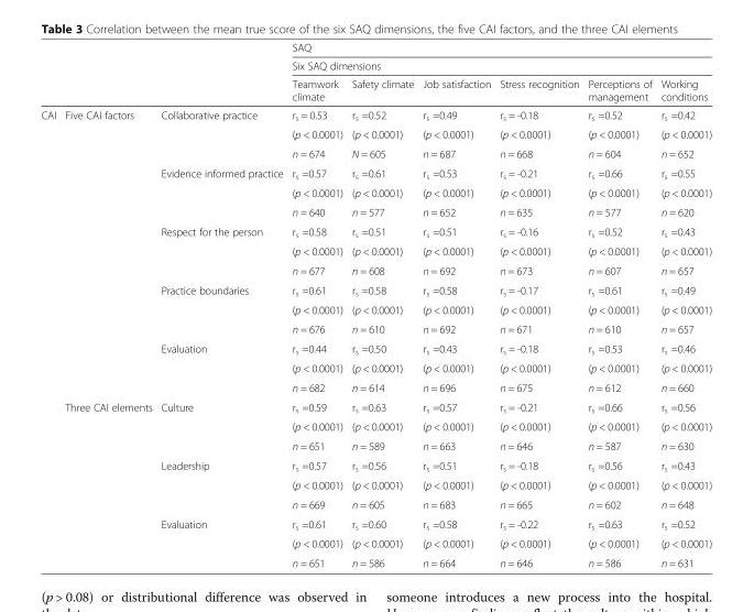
<table><thead><tr><td rowspan="3"></td><td rowspan="3"></td><td rowspan="3"></td><td rowspan="2" colspan="6">SAQ Six SAQ dimensions</td></tr><tr></tr><tr><td>Teamwork climate</td><td>Safety climate</td><td>Job satisfaction</td><td>Stress recognition</td><td>Perceptions of management</td><td>Working conditions</td></tr></thead><tbody><tr><td rowspan="24">CAI</td><td rowspan="15">Five CAI factors</td><td rowspan="3">Collaborative practice</td><td>r<sub>s</sub> = 0.53</td><td>r<sub>s</sub> =0.52</td><td>r<sub>s</sub> =0.49</td><td>r<sub>s</sub> = -0.18</td><td>r<sub>s</sub> =0.52</td><td>r<sub>s</sub> =0.42</td></tr><tr><td>(p &lt; 0.0001)</td><td>(p &lt; 0.0001)</td><td>(p &lt; 0.0001)</td><td>(p &lt; 0.0001)</td><td>(p &lt; 0.0001)</td><td>(p &lt; 0.0001)</td></tr><tr><td>n = 674</td><td>N = 605</td><td>n = 687</td><td>n = 668</td><td>n = 604</td><td>n = 652</td></tr><tr><td rowspan="3">Evidence informed practice</td><td>r<sub>s</sub> =0.57</td><td>r<sub>s</sub> =0.61</td><td>r<sub>s</sub> =0.53</td><td>r<sub>s</sub> = -0.21</td><td>r<sub>s</sub> =0.66</td><td>r<sub>s</sub> =0.55</td></tr><tr><td>(p &lt; 0.0001)</td><td>(p &lt; 0.0001)</td><td>(p &lt; 0.0001)</td><td>(p &lt; 0.0001)</td><td>(p &lt; 0.0001)</td><td>(p &lt; 0.0001)</td></tr><tr><td>n = 640</td><td>n = 577</td><td>n = 652</td><td>n = 635</td><td>n = 577</td><td>n = 620</td></tr><tr><td rowspan="3">Respect for the person</td><td>r<sub>s</sub> =0.58</td><td>r<sub>s</sub> =0.51</td><td>r<sub>s</sub> =0.51</td><td>r<sub>s</sub> = -0.16</td><td>r<sub>s</sub> =0.52</td><td>r<sub>s</sub> =0.43</td></tr><tr><td>(p &lt; 0.0001)</td><td>(p &lt; 0.0001)</td><td>(p &lt; 0.0001)</td><td>(p &lt; 0.0001)</td><td>(p &lt; 0.0001)</td><td>(p &lt; 0.0001)</td></tr><tr><td>n = 677</td><td>n = 608</td><td>n = 692</td><td>n = 673</td><td>n = 607</td><td>n = 657</td></tr><tr><td rowspan="3">Practice boundaries</td><td>r<sub>s</sub> =0.61</td><td>r<sub>s</sub> =0.58</td><td>r<sub>s</sub> =0.58</td><td>r<sub>s</sub> = -0.17</td><td>r<sub>s</sub> =0.61</td><td>r<sub>s</sub> =0.49</td></tr><tr><td>(p &lt; 0.0001)</td><td>(p &lt; 0.0001)</td><td>(p &lt; 0.0001)</td><td>(p &lt; 0.0001)</td><td>(p &lt; 0.0001)</td><td>(p &lt; 0.0001)</td></tr><tr><td>n = 676</td><td>n = 610</td><td>n = 692</td><td>n = 671</td><td>n = 610</td><td>n = 657</td></tr><tr><td rowspan="3">Evaluation</td><td>r<sub>s</sub> =0.44</td><td>r<sub>s</sub> =0.50</td><td>r<sub>s</sub> =0.43</td><td>r<sub>s</sub> = -0.18</td><td>r<sub>s</sub> =0.53</td><td>r<sub>s</sub> =0.46</td></tr><tr><td>(p &lt; 0.0001)</td><td>(p &lt; 0.0001)</td><td>(p &lt; 0.0001)</td><td>(p &lt; 0.0001)</td><td>(p &lt; 0.0001)</td><td>(p &lt; 0.0001)</td></tr><tr><td>n = 682</td><td>n = 614</td><td>n = 696</td><td>n = 675</td><td>n = 612</td><td>n = 660</td></tr><tr><td rowspan="9">Three CAI elements</td><td rowspan="3">Culture</td><td>r<sub>s</sub> =0.59</td><td>r<sub>s</sub> =0.63</td><td>r<sub>s</sub> =0.57</td><td>r<sub>s</sub> = -0.21</td><td>r<sub>s</sub> =0.66</td><td>r<sub>s</sub> =0.56</td></tr><tr><td>(p &lt; 0.0001)</td><td>(p &lt; 0.0001)</td><td>(p &lt; 0.0001)</td><td>(p &lt; 0.0001)</td><td>(p &lt; 0.0001)</td><td>(p &lt; 0.0001)</td></tr><tr><td>n = 651</td><td>n = 589</td><td>n = 663</td><td>n = 646</td><td>n = 587</td><td>n = 630</td></tr><tr><td rowspan="3">Leadership</td><td>r<sub>s</sub> =0.57</td><td>r<sub>s</sub> =0.56</td><td>r<sub>s</sub> =0.51</td><td>r<sub>s</sub> = -0.18</td><td>r<sub>s</sub> =0.56</td><td>r<sub>s</sub> =0.43</td></tr><tr><td>(p &lt; 0.0001)</td><td>(p &lt; 0.0001)</td><td>(p &lt; 0.0001)</td><td>(p &lt; 0.0001)</td><td>(p &lt; 0.0001)</td><td>(p &lt; 0.0001)</td></tr><tr><td>n = 669</td><td>n = 605</td><td>n = 683</td><td>n = 665</td><td>n = 602</td><td>n = 648</td></tr><tr><td rowspan="3">Evaluation</td><td>r<sub>s</sub> =0.61</td><td>r<sub>s</sub> =0.60</td><td>r<sub>s</sub> =0.58</td><td>r<sub>s</sub> = -0.22</td><td>r<sub>s</sub> =0.63</td><td>r<sub>s</sub> =0.52</td></tr><tr><td>(p &lt; 0.0001)</td><td>(p &lt; 0.0001)</td><td>(p &lt; 0.0001)</td><td>(p &lt; 0.0001)</td><td>(p &lt; 0.0001)</td><td>(p &lt; 0.0001)</td></tr><tr><td>n = 651</td><td>n = 586</td><td>n = 664</td><td>n = 646</td><td>n = 586</td><td>n = 631</td></tr></tbody></table>